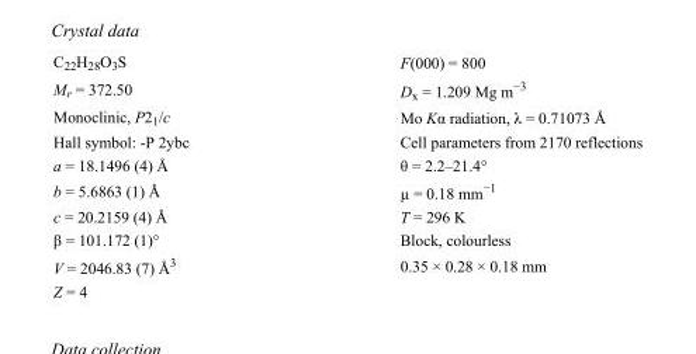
<table><tbody><tr><td>C<sub>22</sub>H<sub>28</sub>O<sub>3</sub>S</td><td>F(000) = 800</td></tr><tr><td>M<sub>r</sub> = 372.50</td><td>D<sub>x</sub> = 1.209 Mg m<sup>−3</sup></td></tr><tr><td>Monoclinic, P2<sub>1</sub>/c</td><td>Mo Kα radiation, λ = 0.71073 Å</td></tr><tr><td>Hall symbol: -P 2ybc</td><td>Cell parameters from 2170 reflections</td></tr><tr><td>a = 18.1496 (4) Å</td><td>θ = 2.2–21.4°</td></tr><tr><td>b = 5.6863 (1) Å</td><td>µ = 0.18 mm<sup>−1</sup></td></tr><tr><td>c = 20.2159 (4) Å</td><td>T = 296 K</td></tr><tr><td>β = 101.172 (1)°</td><td>Block, colourless</td></tr><tr><td>V = 2046.83 (7) Å<sup>3</sup></td><td>0.35 × 0.28 × 0.18 mm</td></tr><tr><td>Z = 4</td><td></td></tr></tbody></table>